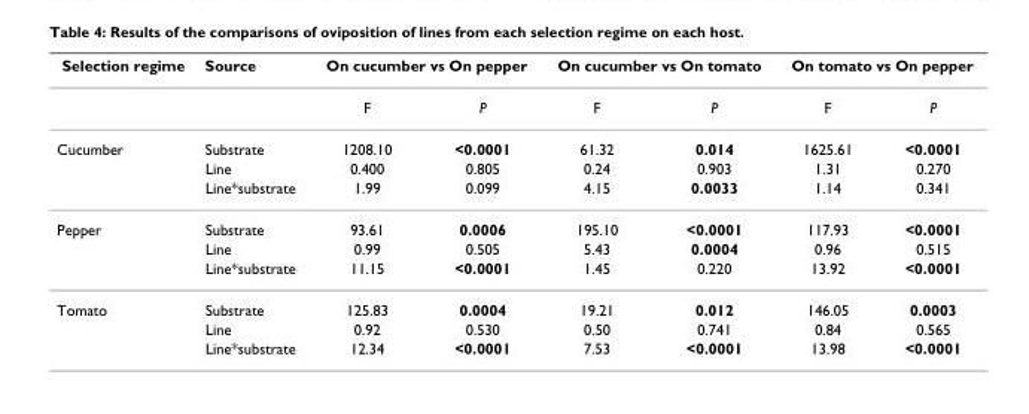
<table><thead><tr><td rowspan="2">Selection regime</td><td rowspan="2">Source</td><td colspan="2">On cucumber vs On pepper</td><td colspan="2">On cucumber vs On tomato</td><td colspan="2">On tomato vs On pepper</td></tr><tr><td>F</td><td>P</td><td>F</td><td>P</td><td>F</td><td>P</td></tr></thead><tbody><tr><td rowspan="3">Cucumber</td><td>Substrate</td><td>1208.10</td><td>&lt;0.0001</td><td>61.32</td><td>0.014</td><td>1625.61</td><td>&lt;0.0001</td></tr><tr><td>Line</td><td>0.400</td><td>0.805</td><td>0.24</td><td>0.903</td><td>1.31</td><td>0.270</td></tr><tr><td>Line*substrate</td><td>1.99</td><td>0.099</td><td>4.15</td><td>0.0033</td><td>1.14</td><td>0.341</td></tr><tr><td rowspan="3">Pepper</td><td>Substrate</td><td>93.61</td><td>0.0006</td><td>195.10</td><td>&lt;0.0001</td><td>117.93</td><td>&lt;0.0001</td></tr><tr><td>Line</td><td>0.99</td><td>0.505</td><td>5.43</td><td>0.0004</td><td>0.96</td><td>0.515</td></tr><tr><td>Line*substrate</td><td>11.15</td><td>&lt;0.0001</td><td>1.45</td><td>0.220</td><td>13.92</td><td>&lt;0.0001</td></tr><tr><td rowspan="3">Tomato</td><td>Substrate</td><td>125.83</td><td>0.0004</td><td>19.21</td><td>0.012</td><td>146.05</td><td>0.0003</td></tr><tr><td>Line</td><td>0.92</td><td>0.530</td><td>0.50</td><td>0.741</td><td>0.84</td><td>0.565</td></tr><tr><td>Line*substrate</td><td>12.34</td><td>&lt;0.0001</td><td>7.53</td><td>&lt;0.0001</td><td>13.98</td><td>&lt;0.0001</td></tr></tbody></table>